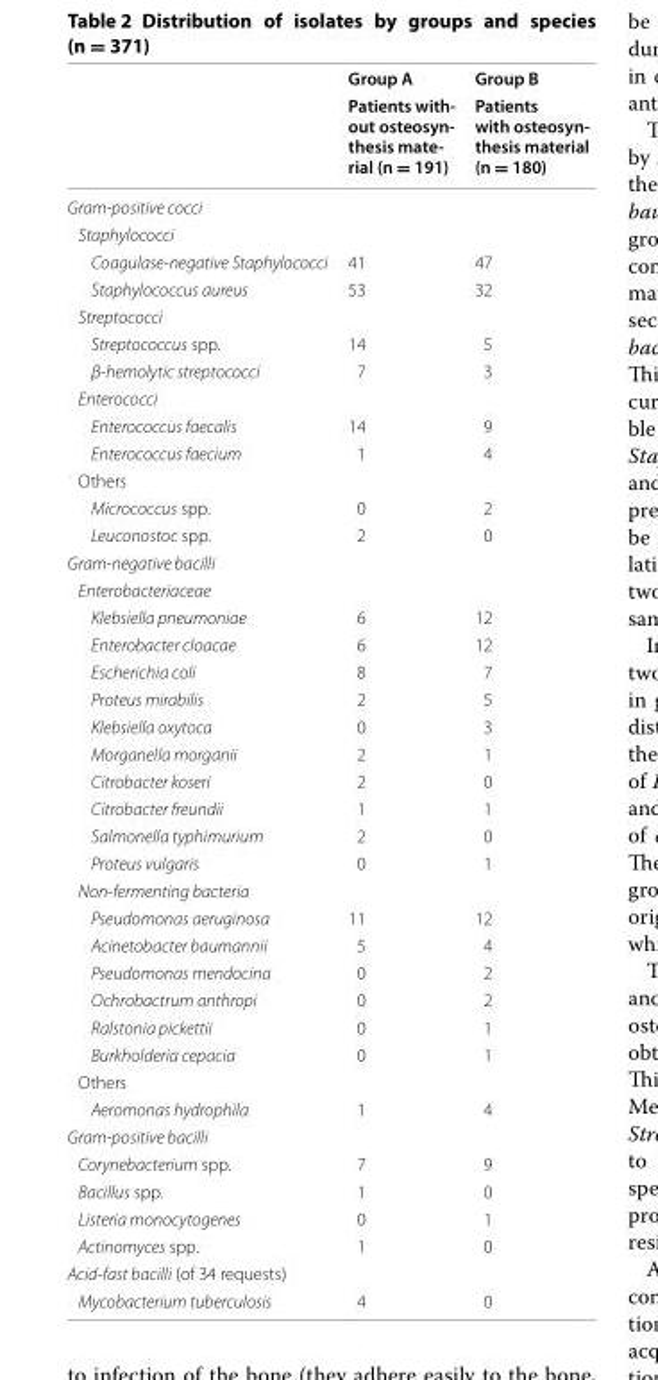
<table><thead><tr><td rowspan="2"></td><td rowspan="2">Group A Patients with- out osteosyn- thesis mate- rial (n = 191)</td><td rowspan="2">Group B Patients with osteosyn- thesis material (n = 180)</td></tr><tr></tr></thead><tbody><tr><td colspan="3">Gram-positive cocci</td></tr><tr><td colspan="3">Staphylococci</td></tr><tr><td>Coagulase-negative Staphylococci</td><td>41</td><td>47</td></tr><tr><td>Staphylococcus aureus</td><td>53</td><td>32</td></tr><tr><td colspan="3">Streptococci</td></tr><tr><td>Streptococcus spp.</td><td>14</td><td>5</td></tr><tr><td>β-hemolytic streptococci</td><td>7</td><td>3</td></tr><tr><td colspan="3">Enterococci</td></tr><tr><td>Enterococcus faecalis</td><td>14</td><td>9</td></tr><tr><td>Enterococcus faecium</td><td>1</td><td>4</td></tr><tr><td colspan="3">Others</td></tr><tr><td>Micrococcus spp.</td><td>0</td><td>2</td></tr><tr><td>Leuconostoc spp.</td><td>2</td><td>0</td></tr><tr><td colspan="3">Gram-negative bacilli</td></tr><tr><td colspan="3">Enterobacteriaceae</td></tr><tr><td>Klebsiella pneumoniae</td><td>6</td><td>12</td></tr><tr><td>Enterobacter cloacae</td><td>6</td><td>12</td></tr><tr><td>Escherichia coli</td><td>8</td><td>7</td></tr><tr><td>Proteus mirabilis</td><td>2</td><td>5</td></tr><tr><td>Klebsiella oxytoca</td><td>0</td><td>3</td></tr><tr><td>Morganella morganii</td><td>2</td><td>1</td></tr><tr><td>Citrobacter koseri</td><td>2</td><td>0</td></tr><tr><td>Citrobacter freundii</td><td>1</td><td>1</td></tr><tr><td>Salmonella typhimurium</td><td>2</td><td>0</td></tr><tr><td>Proteus vulgaris</td><td>0</td><td>1</td></tr><tr><td colspan="3">Non-fermenting bacteria</td></tr><tr><td>Pseudomonas aeruginosa</td><td>11</td><td>12</td></tr><tr><td>Acinetobacter baumannii</td><td>5</td><td>4</td></tr><tr><td>Pseudomonas mendocina</td><td>0</td><td>2</td></tr><tr><td>Ochrobactrum anthropi</td><td>0</td><td>2</td></tr><tr><td>Ralstonia pickettii</td><td>0</td><td>1</td></tr><tr><td>Burkholderia cepacia</td><td>0</td><td>1</td></tr><tr><td colspan="3">Others</td></tr><tr><td>Aeromonas hydrophila</td><td>1</td><td>4</td></tr><tr><td colspan="3">Gram-positive bacilli</td></tr><tr><td>Corynebacterium spp.</td><td>7</td><td>9</td></tr><tr><td>Bacillus spp.</td><td>1</td><td>0</td></tr><tr><td>Listeria monocytogenes</td><td>0</td><td>1</td></tr><tr><td>Actinomyces spp.</td><td>1</td><td>0</td></tr><tr><td colspan="3">Acid-fast bacilli (of 34 requests)</td></tr><tr><td>Mycobacterium tuberculosis</td><td>4</td><td>0</td></tr></tbody></table>